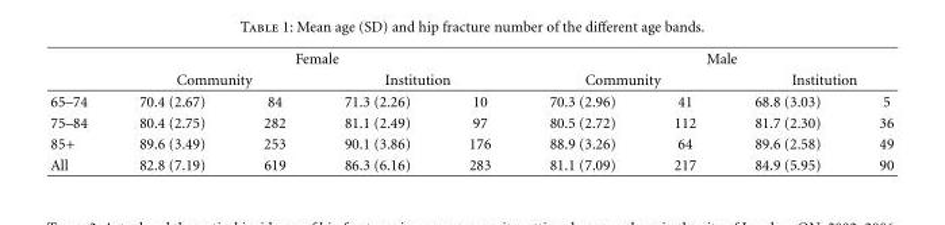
<table><thead><tr><td rowspan="3">65–74</td><td colspan="4">Female</td><td colspan="4">Male</td></tr><tr><td colspan="2">Community</td><td colspan="2">Institution</td><td colspan="2">Community</td><td colspan="2">Institution</td></tr><tr><td>70.4 (2.67)</td><td>84</td><td>71.3 (2.26)</td><td>10</td><td>70.3 (2.96)</td><td>41</td><td>68.8 (3.03)</td><td>5</td></tr></thead><tbody><tr><td>75–84</td><td>80.4 (2.75)</td><td>282</td><td>81.1 (2.49)</td><td>97</td><td>80.5 (2.72)</td><td>112</td><td>81.7 (2.30)</td><td>36</td></tr><tr><td>85+</td><td>89.6 (3.49)</td><td>253</td><td>90.1 (3.86)</td><td>176</td><td>88.9 (3.26)</td><td>64</td><td>89.6 (2.58)</td><td>49</td></tr><tr><td>All</td><td>82.8 (7.19)</td><td>619</td><td>86.3 (6.16)</td><td>283</td><td>81.1 (7.09)</td><td>217</td><td>84.9 (5.95)</td><td>90</td></tr></tbody></table>